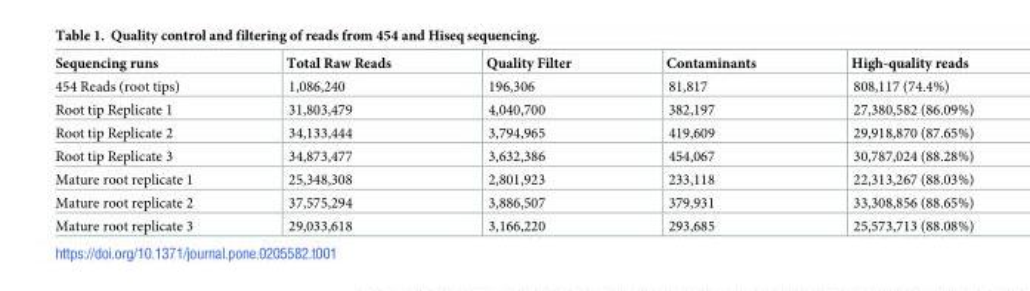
<table><thead><tr><td>Sequencing runs</td><td>Total Raw Reads</td><td>Quality Filter</td><td>Contaminants</td><td>High-quality reads</td></tr></thead><tbody><tr><td>454 Reads (root tips)</td><td>1,086,240</td><td>196,306</td><td>81,817</td><td>808,117 (74.4%)</td></tr><tr><td>Root tip Replicate 1</td><td>31,803,479</td><td>4,040,700</td><td>382,197</td><td>27,380,582 (86.09%)</td></tr><tr><td>Root tip Replicate 2</td><td>34,133,444</td><td>3,794,965</td><td>419,609</td><td>29,918,870 (87.65%)</td></tr><tr><td>Root tip Replicate 3</td><td>34,873,477</td><td>3,632,386</td><td>454,067</td><td>30,787,024 (88.28%)</td></tr><tr><td>Mature root replicate 1</td><td>25,348,308</td><td>2,801,923</td><td>233,118</td><td>22,313,267 (88.03%)</td></tr><tr><td>Mature root replicate 2</td><td>37,575,294</td><td>3,886,507</td><td>379,931</td><td>33,308,856 (88.65%)</td></tr><tr><td>Mature root replicate 3</td><td>29,033,618</td><td>3,166,220</td><td>293,685</td><td>25,573,713 (88.08%)</td></tr></tbody></table>